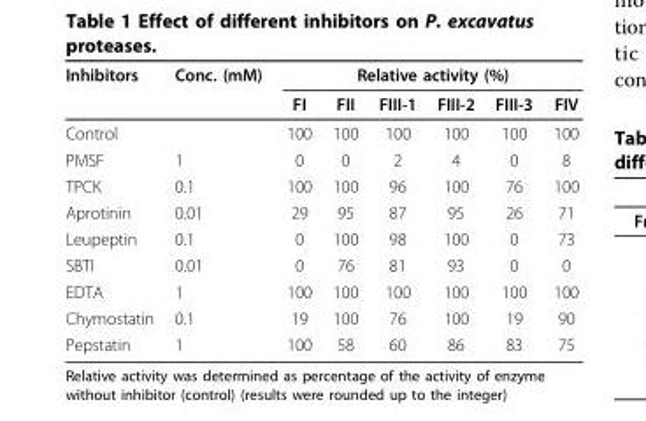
<table><thead><tr><td rowspan="2">Inhibitors</td><td rowspan="2">Conc. (mM)</td><td colspan="6">Relative activity (%)</td></tr><tr><td>FI</td><td>FII</td><td>FIII-1</td><td>FIII-2</td><td>FIII-3</td><td>FIV</td></tr></thead><tbody><tr><td>Control</td><td></td><td>100</td><td>100</td><td>100</td><td>100</td><td>100</td><td>100</td></tr><tr><td>PMSF</td><td>1</td><td>0</td><td>0</td><td>2</td><td>4</td><td>0</td><td>8</td></tr><tr><td>TPCK</td><td>0.1</td><td>100</td><td>100</td><td>96</td><td>100</td><td>76</td><td>100</td></tr><tr><td>Aprotinin</td><td>0.01</td><td>29</td><td>95</td><td>87</td><td>95</td><td>26</td><td>71</td></tr><tr><td>Leupeptin</td><td>0.1</td><td>0</td><td>100</td><td>98</td><td>100</td><td>0</td><td>73</td></tr><tr><td>SBTI</td><td>0.01</td><td>0</td><td>76</td><td>81</td><td>93</td><td>0</td><td>0</td></tr><tr><td>EDTA</td><td>1</td><td>100</td><td>100</td><td>100</td><td>100</td><td>100</td><td>100</td></tr><tr><td>Chymostatin</td><td>0.1</td><td>19</td><td>100</td><td>76</td><td>100</td><td>19</td><td>90</td></tr><tr><td>Pepstatin</td><td>1</td><td>100</td><td>58</td><td>60</td><td>86</td><td>83</td><td>75</td></tr></tbody></table>